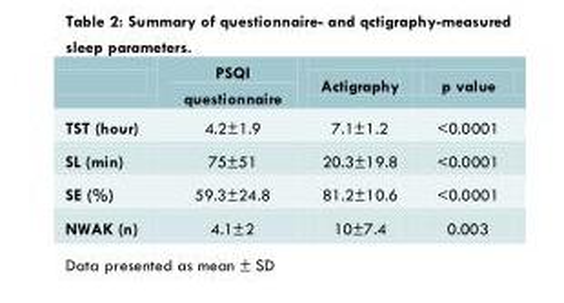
<table><thead><tr><td></td><td>PSQI questionnaire</td><td>Actigraphy</td><td>p value</td></tr></thead><tbody><tr><td>TST (hour)</td><td>4.2±1.9</td><td>7.1±1.2</td><td>&lt;0.0001</td></tr><tr><td>SL (min)</td><td>75±51</td><td>20.3±19.8</td><td>&lt;0.0001</td></tr><tr><td>SE (%)</td><td>59.3±24.8</td><td>81.2±10.6</td><td>&lt;0.0001</td></tr><tr><td>NWAK (n)</td><td>4.1±2</td><td>10±7.4</td><td>0.003</td></tr></tbody></table>